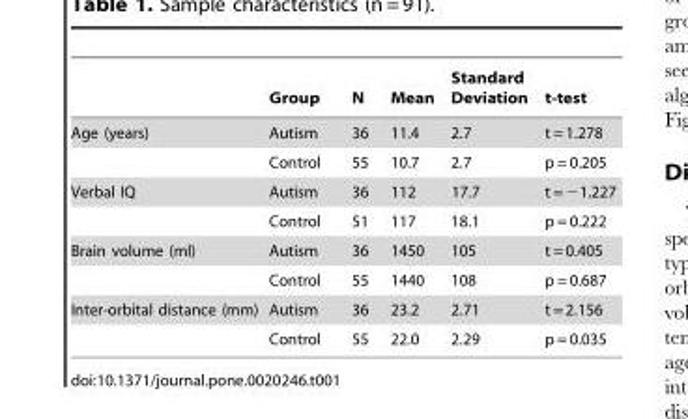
<table><thead><tr><td></td><td>Group</td><td>N</td><td>Mean</td><td>Standard Deviation</td><td>t-test</td></tr></thead><tbody><tr><td rowspan="2">Age (years)</td><td>Autism</td><td>36</td><td>11.4</td><td>2.7</td><td>t = 1.278</td></tr><tr><td>Control</td><td>55</td><td>10.7</td><td>2.7</td><td>p = 0.205</td></tr><tr><td rowspan="2">Verbal IQ</td><td>Autism</td><td>36</td><td>112</td><td>17.7</td><td>t = −1.227</td></tr><tr><td>Control</td><td>51</td><td>117</td><td>18.1</td><td>p = 0.222</td></tr><tr><td rowspan="2">Brain volume (ml)</td><td>Autism</td><td>36</td><td>1450</td><td>105</td><td>t = 0.405</td></tr><tr><td>Control</td><td>55</td><td>1440</td><td>108</td><td>p = 0.687</td></tr><tr><td rowspan="2">Inter-orbital distance (mm)</td><td>Autism</td><td>36</td><td>23.2</td><td>2.71</td><td>t = 2.156</td></tr><tr><td>Control</td><td>55</td><td>22.0</td><td>2.29</td><td>p = 0.035</td></tr></tbody></table>